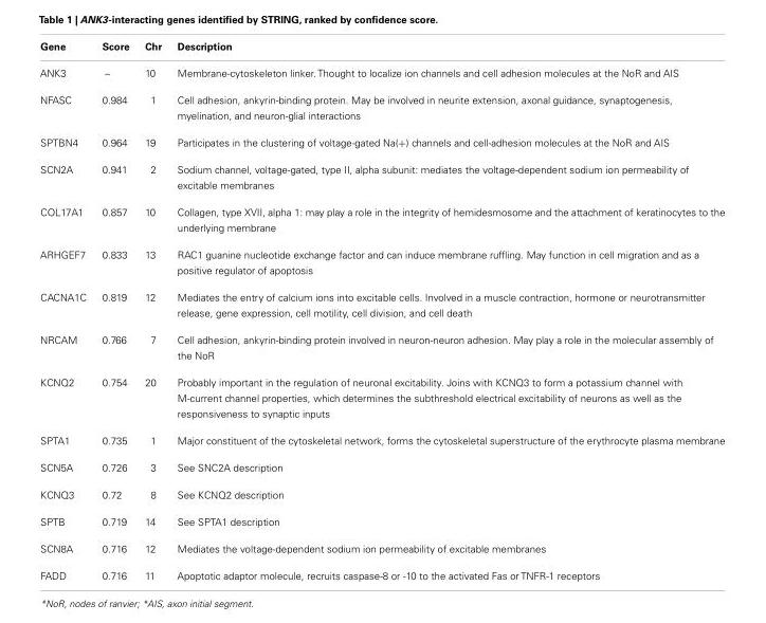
<table><thead><tr><td>Gene</td><td>Score</td><td>Chr</td><td>Description</td></tr></thead><tbody><tr><td>ANK3</td><td>–</td><td>10</td><td>Membrane-cytoskeleton linker. Thought to localize ion channels and cell adhesion molecules at the NoR and AIS</td></tr><tr><td>NFASC</td><td>0.984</td><td>1</td><td>Cell adhesion, ankyrin-binding protein. May be involved in neurite extension, axonal guidance, synaptogenesis, myelination, and neuron-glial interactions</td></tr><tr><td>SPTBN4</td><td>0.964</td><td>19</td><td>Participates in the clustering of voltage-gated Na(+) channels and cell-adhesion molecules at the NoR and AIS</td></tr><tr><td>SCN2A</td><td>0.941</td><td>2</td><td>Sodium channel, voltage-gated, type II, alpha subunit: mediates the voltage-dependent sodium ion permeability of excitable membranes</td></tr><tr><td>COL17A1</td><td>0.857</td><td>10</td><td>Collagen, type XVII, alpha 1: may play a role in the integrity of hemidesmosome and the attachment of keratinocytes to the underlying membrane</td></tr><tr><td>ARHGEF7</td><td>0.833</td><td>13</td><td>RAC1 guanine nucleotide exchange factor and can induce membrane ruffling. May function in cell migration and as a positive regulator of apoptosis</td></tr><tr><td>CACNA1C</td><td>0.819</td><td>12</td><td>Mediates the entry of calcium ions into excitable cells. Involved in a muscle contraction, hormone or neurotransmitter release, gene expression, cell motility, cell division, and cell death</td></tr><tr><td>NRCAM</td><td>0.766</td><td>7</td><td>Cell adhesion, ankyrin-binding protein involved in neuron-neuron adhesion. May play a role in the molecular assembly of the NoR</td></tr><tr><td>KCNQ2</td><td>0.754</td><td>20</td><td>Probably important in the regulation of neuronal excitability. Joins with KCNQ3 to form a potassium channel with M-current channel properties, which determines the subthreshold electrical excitability of neurons as well as the responsiveness to synaptic inputs</td></tr><tr><td>SPTA1</td><td>0.735</td><td>1</td><td>Major constituent of the cytoskeletal network, forms the cytoskeletal superstructure of the erythrocyte plasma membrane</td></tr><tr><td>SCN5A</td><td>0.726</td><td>3</td><td>See SNC2A description</td></tr><tr><td>KCNQ3</td><td>0.72</td><td>8</td><td>See KCNQ2 description</td></tr><tr><td>SPTB</td><td>0.719</td><td>14</td><td>See SPTA1 description</td></tr><tr><td>SCN8A</td><td>0.716</td><td>12</td><td>Mediates the voltage-dependent sodium ion permeability of excitable membranes</td></tr><tr><td>FADD</td><td>0.716</td><td>11</td><td>Apoptotic adaptor molecule, recruits caspase-8 or -10 to the activated Fas or TNFR-1 receptors</td></tr></tbody></table>